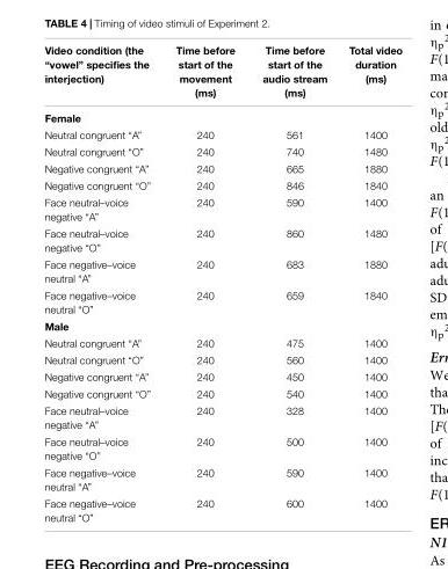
<table><thead><tr><td>Video condition (the “vowel” specifies the interjection)</td><td>Time before start of the movement (ms)</td><td>Time before start of the audio stream (ms)</td><td>Total video duration (ms)</td></tr></thead><tbody><tr><td colspan="4">Female</td></tr><tr><td>Neutral congruent “A”</td><td>240</td><td>561</td><td>1400</td></tr><tr><td>Neutral congruent “O”</td><td>240</td><td>740</td><td>1480</td></tr><tr><td>Negative congruent “A”</td><td>240</td><td>665</td><td>1880</td></tr><tr><td>Negative congruent “O”</td><td>240</td><td>846</td><td>1840</td></tr><tr><td>Face neutral–voice negative “A”</td><td>240</td><td>590</td><td>1400</td></tr><tr><td>Face neutral–voice negative “O”</td><td>240</td><td>860</td><td>1480</td></tr><tr><td>Face negative–voice neutral “A”</td><td>240</td><td>683</td><td>1880</td></tr><tr><td>Face negative–voice neutral “O”</td><td>240</td><td>659</td><td>1840</td></tr><tr><td colspan="4">Male</td></tr><tr><td>Neutral congruent “A”</td><td>240</td><td>475</td><td>1400</td></tr><tr><td>Neutral congruent “O”</td><td>240</td><td>560</td><td>1400</td></tr><tr><td>Negative congruent “A”</td><td>240</td><td>450</td><td>1400</td></tr><tr><td>Negative congruent “O”</td><td>240</td><td>540</td><td>1400</td></tr><tr><td>Face neutral–voice negative “A”</td><td>240</td><td>328</td><td>1400</td></tr><tr><td>Face neutral–voice negative “O”</td><td>240</td><td>500</td><td>1400</td></tr><tr><td>Face negative–voice neutral “A”</td><td>240</td><td>590</td><td>1400</td></tr><tr><td>Face negative–voice neutral “O”</td><td>240</td><td>600</td><td>1400</td></tr></tbody></table>